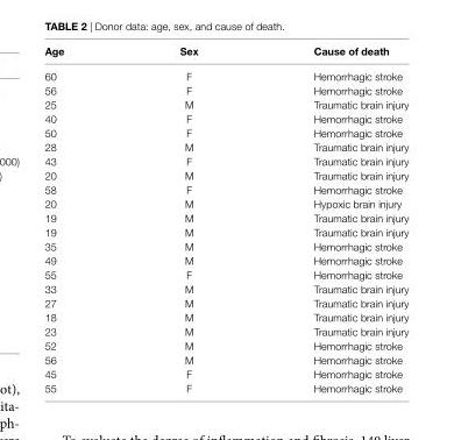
<table><thead><tr><td>age</td><td>sex</td><td>cause of death</td></tr></thead><tbody><tr><td>60</td><td>F</td><td>Hemorrhagic stroke</td></tr><tr><td>56</td><td>F</td><td>Hemorrhagic stroke</td></tr><tr><td>25</td><td>M</td><td>Traumatic brain injury</td></tr><tr><td>40</td><td>F</td><td>Hemorrhagic stroke</td></tr><tr><td>50</td><td>F</td><td>Hemorrhagic stroke</td></tr><tr><td>28</td><td>M</td><td>Traumatic brain injury</td></tr><tr><td>43</td><td>F</td><td>Traumatic brain injury</td></tr><tr><td>20</td><td>M</td><td>Traumatic brain injury</td></tr><tr><td>58</td><td>F</td><td>Hemorrhagic stroke</td></tr><tr><td>20</td><td>M</td><td>Hypoxic brain injury</td></tr><tr><td>19</td><td>M</td><td>Traumatic brain injury</td></tr><tr><td>19</td><td>M</td><td>Traumatic brain injury</td></tr><tr><td>35</td><td>M</td><td>Hemorrhagic stroke</td></tr><tr><td>49</td><td>M</td><td>Hemorrhagic stroke</td></tr><tr><td>55</td><td>F</td><td>Hemorrhagic stroke</td></tr><tr><td>33</td><td>M</td><td>Traumatic brain injury</td></tr><tr><td>27</td><td>M</td><td>Traumatic brain injury</td></tr><tr><td>18</td><td>M</td><td>Traumatic brain injury</td></tr><tr><td>23</td><td>M</td><td>Traumatic brain injury</td></tr><tr><td>52</td><td>M</td><td>Hemorrhagic stroke</td></tr><tr><td>56</td><td>M</td><td>Hemorrhagic stroke</td></tr><tr><td>45</td><td>F</td><td>Hemorrhagic stroke</td></tr><tr><td>55</td><td>F</td><td>Hemorrhagic stroke</td></tr></tbody></table>